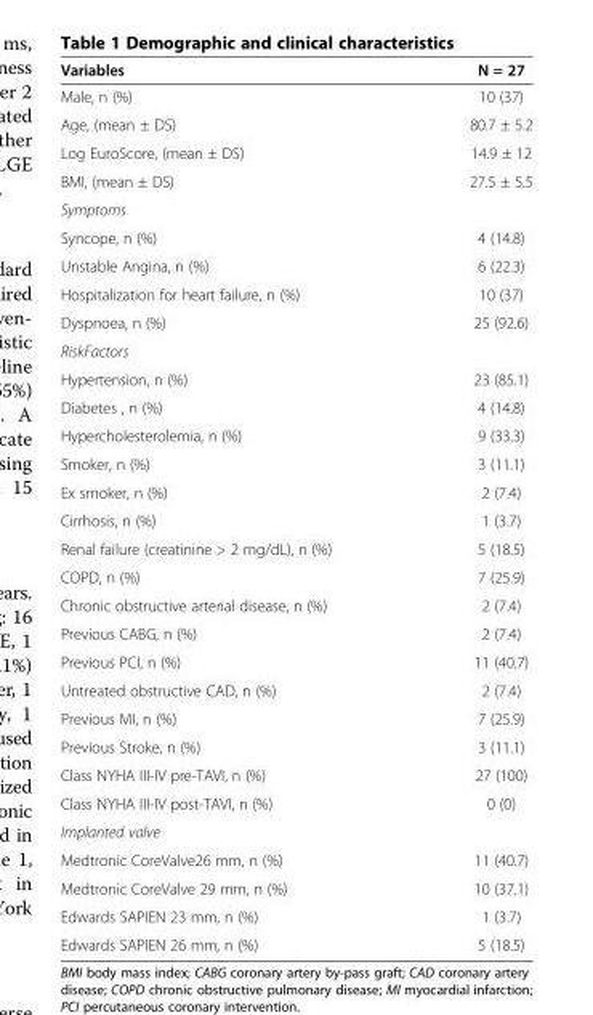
<table><thead><tr><td>Variables</td><td>N = 27</td></tr></thead><tbody><tr><td>Male, n (%)</td><td>10 (37)</td></tr><tr><td>Age, (mean ± DS)</td><td>80.7 ± 5.2</td></tr><tr><td>Log EuroScore, (mean ± DS)</td><td>14.9 ± 12</td></tr><tr><td>BMI, (mean ± DS)</td><td>27.5 ± 5.5</td></tr><tr><td colspan="2">Symptoms</td></tr><tr><td>Syncope, n (%)</td><td>4 (14.8)</td></tr><tr><td>Unstable Angina, n (%)</td><td>6 (22.3)</td></tr><tr><td>Hospitalization for heart failure, n (%)</td><td>10 (37)</td></tr><tr><td>Dyspnoea, n (%)</td><td>25 (92.6)</td></tr><tr><td colspan="2">RiskFactors</td></tr><tr><td>Hypertension, n (%)</td><td>23 (85.1)</td></tr><tr><td>Diabetes , n (%)</td><td>4 (14.8)</td></tr><tr><td>Hypercholesterolemia, n (%)</td><td>9 (33.3)</td></tr><tr><td>Smoker, n (%)</td><td>3 (11.1)</td></tr><tr><td>Ex smoker, n (%)</td><td>2 (7.4)</td></tr><tr><td>Cirrhosis, n (%)</td><td>1 (3.7)</td></tr><tr><td>Renal failure (creatinine &gt; 2 mg/dL), n (%)</td><td>5 (18.5)</td></tr><tr><td>COPD, n (%)</td><td>7 (25.9)</td></tr><tr><td>Chronic obstructive arterial disease, n (%)</td><td>2 (7.4)</td></tr><tr><td>Previous CABG, n (%)</td><td>2 (7.4)</td></tr><tr><td>Previous PCI, n (%)</td><td>11 (40.7)</td></tr><tr><td>Untreated obstructive CAD, n (%)</td><td>2 (7.4)</td></tr><tr><td>Previous MI, n (%)</td><td>7 (25.9)</td></tr><tr><td>Previous Stroke, n (%)</td><td>3 (11.1)</td></tr><tr><td>Class NYHA III-IV pre-TAVI, n (%)</td><td>27 (100)</td></tr><tr><td>Class NYHA III-IV post-TAVI, n (%)</td><td>0 (0)</td></tr><tr><td colspan="2">Implanted valve</td></tr><tr><td>Medtronic CoreValve26 mm, n (%)</td><td>11 (40.7)</td></tr><tr><td>Medtronic CoreValve 29 mm, n (%)</td><td>10 (37.1)</td></tr><tr><td>Edwards SAPIEN 23 mm, n (%)</td><td>1 (3.7)</td></tr><tr><td>Edwards SAPIEN 26 mm, n (%)</td><td>5 (18.5)</td></tr></tbody></table>